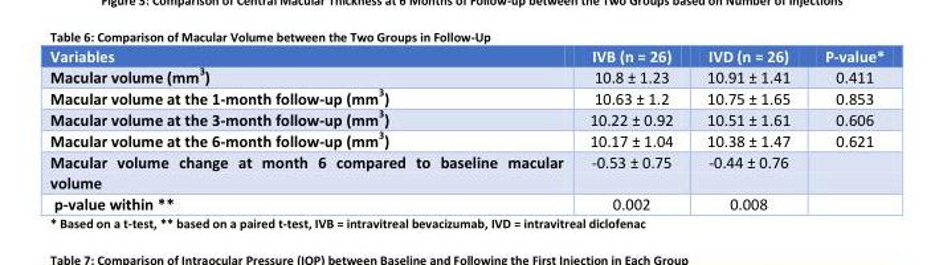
<table><thead><tr><td>Variables</td><td>IVB (n = 26)</td><td>IVD (n = 26)</td><td>P-value*</td></tr></thead><tbody><tr><td>Macular volume (mm<sup>3</sup>)</td><td>10.8 ± 1.23</td><td>10.91 ± 1.41</td><td>0.411</td></tr><tr><td>Macular volume at the 1-month follow-up (mm<sup>3</sup>)</td><td>10.63 ± 1.2</td><td>10.75 ± 1.65</td><td>0.853</td></tr><tr><td>Macular volume at the 3-month follow-up (mm<sup>3</sup>)</td><td>10.22 ± 0.92</td><td>10.51 ± 1.61</td><td>0.606</td></tr><tr><td>Macular volume at the 6-month follow-up (mm<sup>3</sup>)</td><td>10.17 ± 1.04</td><td>10.38 ± 1.47</td><td>0.621</td></tr><tr><td>Macular volume change at month 6 compared to baseline macular volume</td><td>-0.53 ± 0.75</td><td>-0.44 ± 0.76</td><td></td></tr><tr><td>p-value within **</td><td>0.002</td><td>0.008</td><td></td></tr></tbody></table>